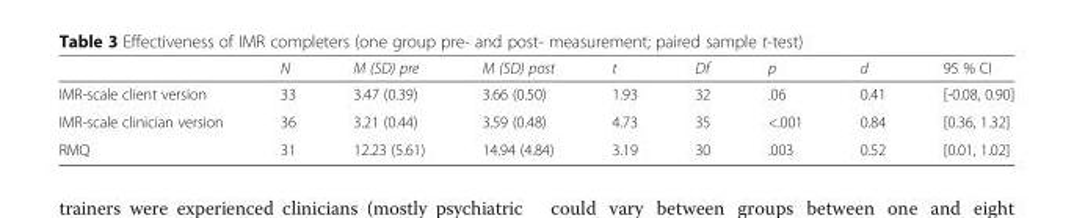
<table><thead><tr><td></td><td>N</td><td>M (SD) pre</td><td>M (SD) post</td><td>t</td><td>Df</td><td>p</td><td>d</td><td>95 % CI</td></tr></thead><tbody><tr><td>IMR-scale client version</td><td>33</td><td>3.47 (0.39)</td><td>3.66 (0.50)</td><td>1.93</td><td>32</td><td>.06</td><td>0.41</td><td>[-0.08, 0.90]</td></tr><tr><td>IMR-scale clinician version</td><td>36</td><td>3.21 (0.44)</td><td>3.59 (0.48)</td><td>4.73</td><td>35</td><td>&lt;.001</td><td>0.84</td><td>[0.36, 1.32]</td></tr><tr><td>RMQ</td><td>31</td><td>12.23 (5.61)</td><td>14.94 (4.84)</td><td>3.19</td><td>30</td><td>.003</td><td>0.52</td><td>[0.01, 1.02]</td></tr></tbody></table>